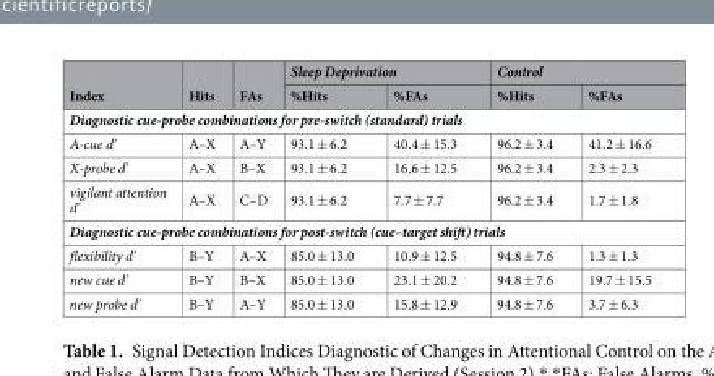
<table><thead><tr><td rowspan="2">Index</td><td rowspan="2">Hits</td><td rowspan="2">FAs</td><td colspan="2">Sleep Deprivation</td><td colspan="2">Control</td></tr><tr><td>%Hits</td><td>%FAs</td><td>%Hits</td><td>%FAs</td></tr></thead><tbody><tr><td colspan="7">Diagnostic cue-probe combinations for pre-switch (standard) trials</td></tr><tr><td>A-cue d’</td><td>A–X</td><td>A–Y</td><td>93.1 ± 6.2</td><td>40.4 ± 15.3</td><td>96.2 ± 3.4</td><td>41.2 ± 16.6</td></tr><tr><td>X-probe d’</td><td>A–X</td><td>B–X</td><td>93.1 ± 6.2</td><td>16.6 ± 12.5</td><td>96.2 ± 3.4</td><td>2.3 ± 2.3</td></tr><tr><td>vigilant attention d’</td><td>A–X</td><td>C–D</td><td>93.1 ± 6.2</td><td>7.7 ± 7.7</td><td>96.2 ± 3.4</td><td>1.7 ± 1.8</td></tr><tr><td colspan="7">Diagnostic cue-probe combinations for post-switch (cue–target shift) trials</td></tr><tr><td>flexibility d’</td><td>B–Y</td><td>A–X</td><td>85.0 ± 13.0</td><td>10.9 ± 12.5</td><td>94.8 ± 7.6</td><td>1.3 ± 1.3</td></tr><tr><td>new cue d’</td><td>B–Y</td><td>B–X</td><td>85.0 ± 13.0</td><td>23.1 ± 20.2</td><td>94.8 ± 7.6</td><td>19.7 ± 15.5</td></tr><tr><td>new probe d’</td><td>B–Y</td><td>A–Y</td><td>85.0 ± 13.0</td><td>15.8 ± 12.9</td><td>94.8 ± 7.6</td><td>3.7 ± 6.3</td></tr></tbody></table>